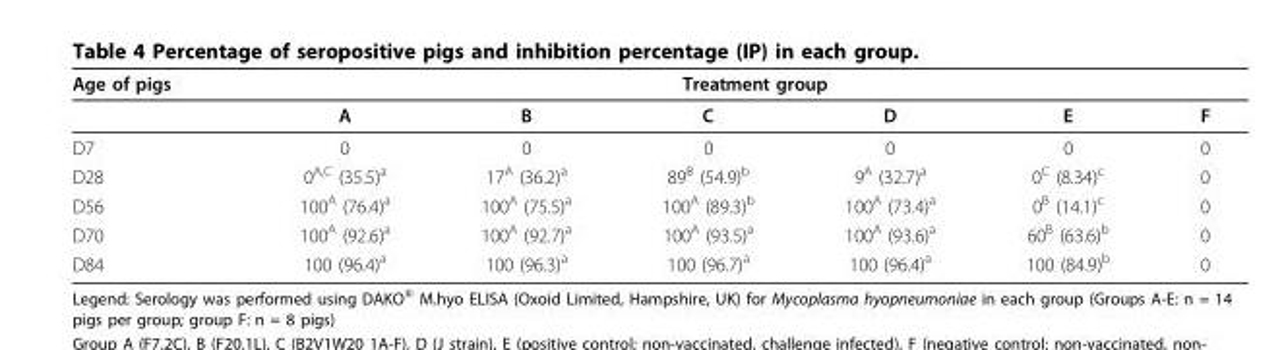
<table><thead><tr><td rowspan="2">Age of pigs</td><td colspan="6">Treatment group</td></tr><tr><td>A</td><td>B</td><td>C</td><td>D</td><td>E</td><td>F</td></tr></thead><tbody><tr><td>D7</td><td>0</td><td>0</td><td>0</td><td>0</td><td>0</td><td>0</td></tr><tr><td>D28</td><td>0<sup>A,C</sup> (35.5)<sup>a</sup></td><td>17<sup>A</sup> (36.2)<sup>a</sup></td><td>89<sup>B</sup> (54.9)<sup>b</sup></td><td>9<sup>A</sup> (32.7)<sup>a</sup></td><td>0<sup>C</sup> (8.34)<sup>c</sup></td><td>0</td></tr><tr><td>D56</td><td>100<sup>A</sup> (76.4)<sup>a</sup></td><td>100<sup>A</sup> (75.5)<sup>a</sup></td><td>100<sup>A</sup> (89.3)<sup>b</sup></td><td>100<sup>A</sup> (73.4)<sup>a</sup></td><td>0<sup>B</sup> (14.1)<sup>c</sup></td><td>0</td></tr><tr><td>D70</td><td>100<sup>A</sup> (92.6)<sup>a</sup></td><td>100<sup>A</sup> (92.7)<sup>a</sup></td><td>100<sup>A</sup> (93.5)<sup>a</sup></td><td>100<sup>A</sup> (93.6)<sup>a</sup></td><td>60<sup>B</sup> (63.6)<sup>b</sup></td><td>0</td></tr><tr><td>D84</td><td>100 (96.4)<sup>a</sup></td><td>100 (96.3)<sup>a</sup></td><td>100 (96.7)<sup>a</sup></td><td>100 (96.4)<sup>a</sup></td><td>100 (84.9)<sup>b</sup></td><td>0</td></tr></tbody></table>